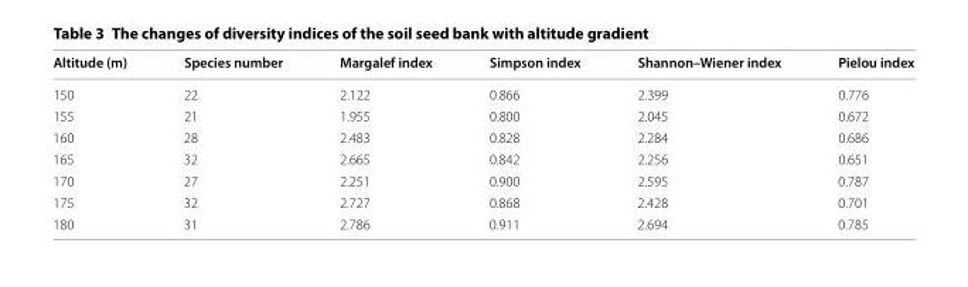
<table><thead><tr><td>Altitude (m)</td><td>Species number</td><td>Margalef index</td><td>Simpson index</td><td>Shannon–Wiener index</td><td>Pielou index</td></tr></thead><tbody><tr><td>150</td><td>22</td><td>2.122</td><td>0.866</td><td>2.399</td><td>0.776</td></tr><tr><td>155</td><td>21</td><td>1.955</td><td>0.800</td><td>2.045</td><td>0.672</td></tr><tr><td>160</td><td>28</td><td>2.483</td><td>0.828</td><td>2.284</td><td>0.686</td></tr><tr><td>165</td><td>32</td><td>2.665</td><td>0.842</td><td>2.256</td><td>0.651</td></tr><tr><td>170</td><td>27</td><td>2.251</td><td>0.900</td><td>2.595</td><td>0.787</td></tr><tr><td>175</td><td>32</td><td>2.727</td><td>0.868</td><td>2.428</td><td>0.701</td></tr><tr><td>180</td><td>31</td><td>2.786</td><td>0.911</td><td>2.694</td><td>0.785</td></tr></tbody></table>